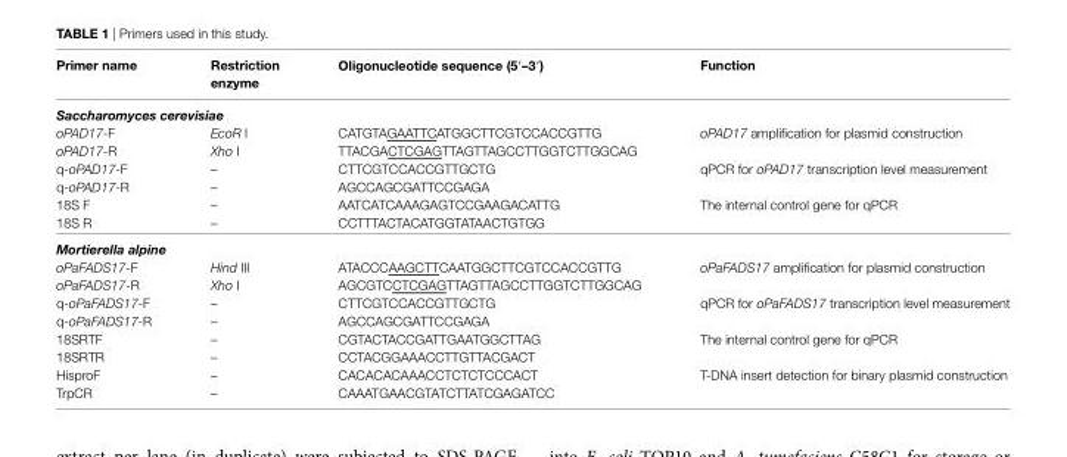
<table><thead><tr><td>Primer name</td><td>restriction enzyme</td><td>Oligonucleotide sequence (5′–3′)</td><td>Function</td></tr></thead><tbody><tr><td colspan="4">Saccharomyces cerevisiae</td></tr><tr><td>oPAD17-F</td><td>EcoR I</td><td>CATGTAGAATTCATGGCTTCGTCCACCGTTG</td><td rowspan="2">oPAD17 amplification for plasmid construction</td></tr><tr><td>oPAD17-R</td><td>Xho I</td><td>TTACGACTCGAGTTAGTTAGCCTTGGTCTTGGCAG</td></tr><tr><td>q-oPAD17-F</td><td>–</td><td>CTTCGTCCACCGTTGCTG</td><td rowspan="2">qPCR for oPAD17 transcription level measurement</td></tr><tr><td>q-oPAD17-R</td><td>–</td><td>AGCCAGCGATTCCGAGA</td></tr><tr><td>18S F</td><td>–</td><td>AATCATCAAAGAGTCCGAAGACATTG</td><td rowspan="2">The internal control gene for qPCR</td></tr><tr><td>18S R</td><td>–</td><td>CCTTTACTACATGGTATAACTGTGG</td></tr><tr><td colspan="4">Mortierella alpine</td></tr><tr><td>oPaFADS17-F</td><td>Hind III</td><td>ATACCCAAGCTTCAATGGCTTCGTCCACCGTTG</td><td rowspan="2">oPaFADS17 amplification for plasmid construction</td></tr><tr><td>oPaFADS17-R</td><td>Xho I</td><td>AGCGTCCTCGAGTTAGTTAGCCTTGGTCTTGGCAG</td></tr><tr><td>q-oPaFADS17-F</td><td>–</td><td>CTTCGTCCACCGTTGCTG</td><td rowspan="2">qPCR for oPaFADS17 transcription level measurement</td></tr><tr><td>q-oPaFADS17-R</td><td>–</td><td>AGCCAGCGATTCCGAGA</td></tr><tr><td>18SRTF</td><td>–</td><td>CGTACTACCGATTGAATGGCTTAG</td><td rowspan="2">The internal control gene for qPCR</td></tr><tr><td>18SRTR</td><td>–</td><td>CCTACGGAAACCTTGTTACGACT</td></tr><tr><td>HisproF</td><td>–</td><td>CACACACAAACCTCTCTCCCACT</td><td rowspan="2">T-DNA insert detection for binary plasmid construction</td></tr><tr><td>TrpCR</td><td>–</td><td>CAAATGAACGTATCTTATCGAGATCC</td></tr></tbody></table>